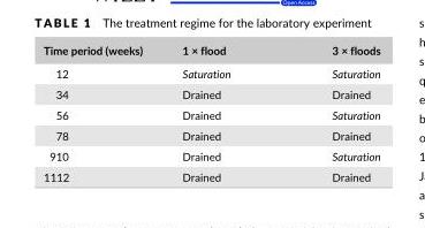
<table><thead><tr><td>Time period (weeks)</td><td>1 × flood</td><td>3 × floods</td></tr></thead><tbody><tr><td>12</td><td>Saturation</td><td>Saturation</td></tr><tr><td>34</td><td>Drained</td><td>Drained</td></tr><tr><td>56</td><td>Drained</td><td>Saturation</td></tr><tr><td>78</td><td>Drained</td><td>Drained</td></tr><tr><td>910</td><td>Drained</td><td>Saturation</td></tr><tr><td>1112</td><td>Drained</td><td>Drained</td></tr></tbody></table>